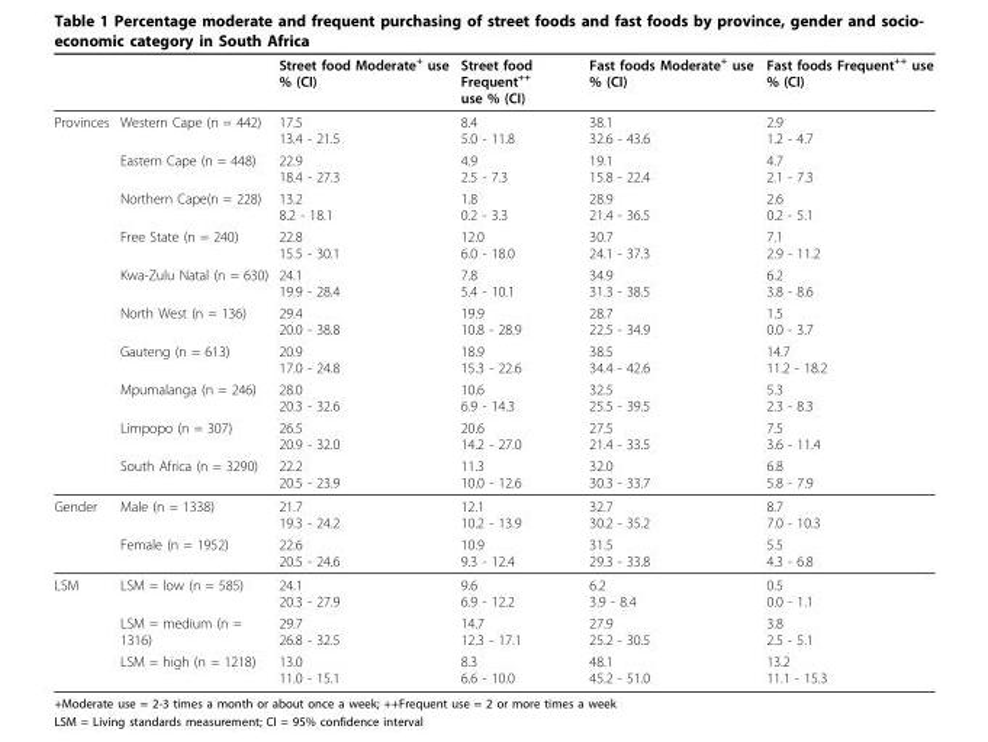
<table><thead><tr><td></td><td></td><td>Street food Moderate<sup>+</sup> use % (CI)</td><td>Street food Frequent<sup>++</sup> use % (CI)</td><td>Fast foods Moderate<sup>+</sup> use % (CI)</td><td>Fast foods Frequent<sup>++</sup> use % (CI)</td></tr></thead><tbody><tr><td rowspan="10">Provinces</td><td>Western Cape (n = 442)</td><td>17.5 13.4 - 21.5</td><td>8.4 5.0 - 11.8</td><td>38.1 32.6 - 43.6</td><td>2.9 1.2 - 4.7</td></tr><tr><td>Eastern Cape (n = 448)</td><td>22.9 18.4 - 27.3</td><td>4.9 2.5 - 7.3</td><td>19.1 15.8 - 22.4</td><td>4.7 2.1 - 7.3</td></tr><tr><td>Northern Cape(n = 228)</td><td>13.2 8.2 - 18.1</td><td>1.8 0.2 - 3.3</td><td>28.9 21.4 - 36.5</td><td>2.6 0.2 - 5.1</td></tr><tr><td>Free State (n = 240)</td><td>22.8 15.5 - 30.1</td><td>12.0 6.0 - 18.0</td><td>30.7 24.1 - 37.3</td><td>7.1 2.9 - 11.2</td></tr><tr><td>Kwa-Zulu Natal (n = 630)</td><td>24.1 19.9 - 28.4</td><td>7.8 5.4 - 10.1</td><td>34.9 31.3 - 38.5</td><td>6.2 3.8 - 8.6</td></tr><tr><td>North West (n = 136)</td><td>29.4 20.0 - 38.8</td><td>19.9 10.8 - 28.9</td><td>28.7 22.5 - 34.9</td><td>1.5 0.0 - 3.7</td></tr><tr><td>Gauteng (n = 613)</td><td>20.9 17.0 - 24.8</td><td>18.9 15.3 - 22.6</td><td>38.5 34.4 - 42.6</td><td>14.7 11.2 - 18.2</td></tr><tr><td>Mpumalanga (n = 246)</td><td>28.0 20.3 - 32.6</td><td>10.6 6.9 - 14.3</td><td>32.5 25.5 - 39.5</td><td>5.3 2.3 - 8.3</td></tr><tr><td>Limpopo (n = 307)</td><td>26.5 20.9 - 32.0</td><td>20.6 14.2 - 27.0</td><td>27.5 21.4 - 33.5</td><td>7.5 3.6 - 11.4</td></tr><tr><td>South Africa (n = 3290)</td><td>22.2 20.5 - 23.9</td><td>11.3 10.0 - 12.6</td><td>32.0 30.3 - 33.7</td><td>6.8 5.8 - 7.9</td></tr><tr><td rowspan="2">Gender</td><td>Male (n = 1338)</td><td>21.7 19.3 - 24.2</td><td>12.1 10.2 - 13.9</td><td>32.7 30.2 - 35.2</td><td>8.7 7.0 - 10.3</td></tr><tr><td>Female (n = 1952)</td><td>22.6 20.5 - 24.6</td><td>10.9 9.3 - 12.4</td><td>31.5 29.3 - 33.8</td><td>5.5 4.3 - 6.8</td></tr><tr><td rowspan="3">LSM</td><td>LSM = low (n = 585)</td><td>24.1 20.3 - 27.9</td><td>9.6 6.9 - 12.2</td><td>6.2 3.9 - 8.4</td><td>0.5 0.0 - 1.1</td></tr><tr><td>LSM = medium (n = 1316)</td><td>29.7 26.8 - 32.5</td><td>14.7 12.3 - 17.1</td><td>27.9 25.2 - 30.5</td><td>3.8 2.5 - 5.1</td></tr><tr><td>LSM = high (n = 1218)</td><td>13.0 11.0 - 15.1</td><td>8.3 6.6 - 10.0</td><td>48.1 45.2 - 51.0</td><td>13.2 11.1 - 15.3</td></tr></tbody></table>